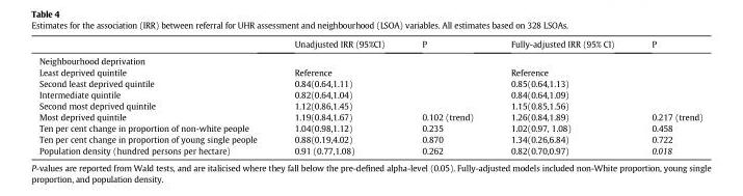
<table><thead><tr><td></td><td>Unadjusted IRR (95%CI)</td><td>P</td><td>Fully-adjusted IRR (95% CI)</td><td>P</td></tr></thead><tbody><tr><td colspan="5">Neighbourhood deprivation</td></tr><tr><td>Least deprived quintile</td><td>Reference</td><td></td><td>Reference</td><td></td></tr><tr><td>Second least deprived quintile</td><td>0.84(0.64,1.11)</td><td></td><td>0.85(0.64,1.13)</td><td></td></tr><tr><td>Intermediate quintile</td><td>0.82(0.64,1.04)</td><td></td><td>0.84(0.64,1.09)</td><td></td></tr><tr><td>Second most deprived quintile</td><td>1.12(0.86,1.45)</td><td></td><td>1.15(0.85,1.56)</td><td></td></tr><tr><td>Most deprived quintile</td><td>1.19(0.84,1.67)</td><td>0.102 (trend)</td><td>1.26(0.84,1.89)</td><td>0.217 (trend)</td></tr><tr><td>Ten per cent change in proportion of non-white people</td><td>1.04(0.98,1.12)</td><td>0.235</td><td>1.02(0.97, 1.08)</td><td>0.458</td></tr><tr><td>Ten per cent change in proportion of young single people</td><td>0.88(0.19,4.02)</td><td>0.870</td><td>1.34(0.26,6.84)</td><td>0.722</td></tr><tr><td>Population density (hundred persons per hectare)</td><td>0.91 (0.77,1.08)</td><td>0.262</td><td>0.82(0.70,0.97)</td><td>0.018</td></tr></tbody></table>